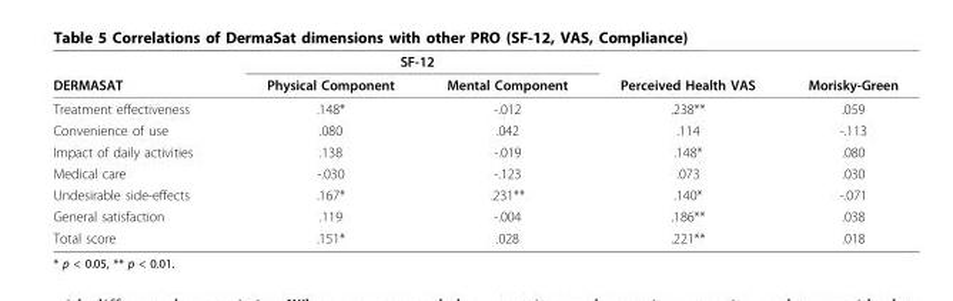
<table><thead><tr><td rowspan="2">DERMASAT</td><td colspan="2">SF-12</td><td rowspan="2">Perceived Health VAS</td><td rowspan="2">Morisky-Green</td></tr><tr><td>Physical Component</td><td>Mental Component</td></tr></thead><tbody><tr><td>Treatment effectiveness</td><td>.148*</td><td>-.012</td><td>.238**</td><td>.059</td></tr><tr><td>Convenience of use</td><td>.080</td><td>.042</td><td>.114</td><td>-.113</td></tr><tr><td>Impact of daily activities</td><td>.138</td><td>-.019</td><td>.148*</td><td>.080</td></tr><tr><td>Medical care</td><td>-.030</td><td>-.123</td><td>.073</td><td>.030</td></tr><tr><td>Undesirable side-effects</td><td>.167*</td><td>.231**</td><td>.140*</td><td>-.071</td></tr><tr><td>General satisfaction</td><td>.119</td><td>-.004</td><td>.186**</td><td>.038</td></tr><tr><td>Total score</td><td>.151*</td><td>.028</td><td>.221**</td><td>.018</td></tr></tbody></table>